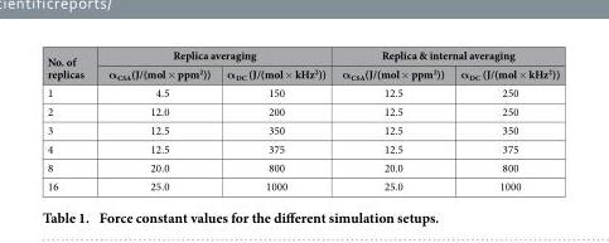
<table><thead><tr><td rowspan="2">No. of replicas</td><td colspan="2">Replica averaging</td><td colspan="2">Replica &amp; internal averaging</td></tr><tr><td>α<sub>CSA</sub>(J/(mol × ppm<sup>2</sup>))</td><td>α<sub>DC</sub> (J/(mol × kHz<sup>2</sup>))</td><td>α<sub>CSA</sub>(J/(mol × ppm<sup>2</sup>))</td><td>α<sub>DC</sub> (J/(mol × kHz<sup>2</sup>))</td></tr></thead><tbody><tr><td>1</td><td>4.5</td><td>150</td><td>12.5</td><td>250</td></tr><tr><td>2</td><td>12.0</td><td>200</td><td>12.5</td><td>250</td></tr><tr><td>3</td><td>12.5</td><td>350</td><td>12.5</td><td>350</td></tr><tr><td>4</td><td>12.5</td><td>375</td><td>12.5</td><td>375</td></tr><tr><td>8</td><td>20.0</td><td>800</td><td>20.0</td><td>800</td></tr><tr><td>16</td><td>25.0</td><td>1000</td><td>25.0</td><td>1000</td></tr></tbody></table>